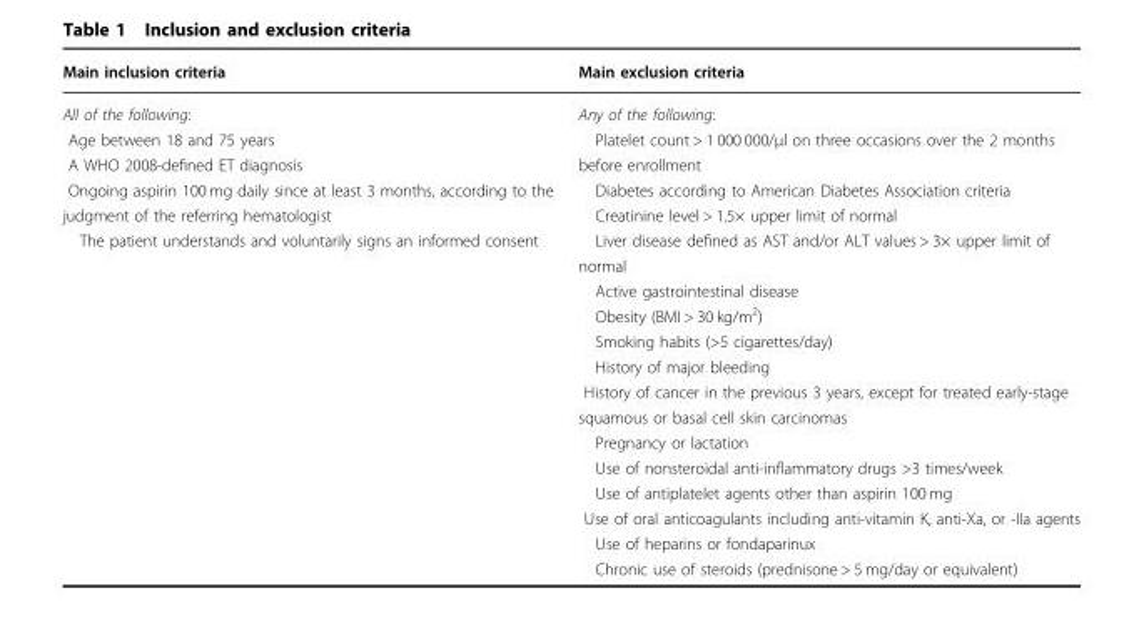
<table><thead><tr><td>Main inclusion criteria</td><td>Main exclusion criteria</td></tr></thead><tbody><tr><td>All of the following: Age between 18 and 75 years A WHO 2008-defined ET diagnosis Ongoing aspirin 100 mg daily since at least 3 months, according to the judgment of the referring hematologist The patient understands and voluntarily signs an informed consent</td><td>Any of the following: Platelet count &gt; 1 000 000/μl on three occasions over the 2 months before enrollment Diabetes according to American Diabetes Association criteria Creatinine level &gt; 1.5× upper limit of normal Liver disease defined as AST and/or ALT values &gt; 3× upper limit of normal Active gastrointestinal disease Obesity (BMI &gt; 30 kg/m<sup>2</sup>) Smoking habits (&gt;5 cigarettes/day) History of major bleeding History of cancer in the previous 3 years, except for treated early-stage squamous or basal cell skin carcinomas Pregnancy or lactation Use of nonsteroidal anti-inflammatory drugs &gt;3 times/week Use of antiplatelet agents other than aspirin 100 mg Use of oral anticoagulants including anti-vitamin K, anti-Xa, or -IIa agents Use of heparins or fondaparinux Chronic use of steroids (prednisone &gt; 5 mg/day or equivalent)</td></tr></tbody></table>